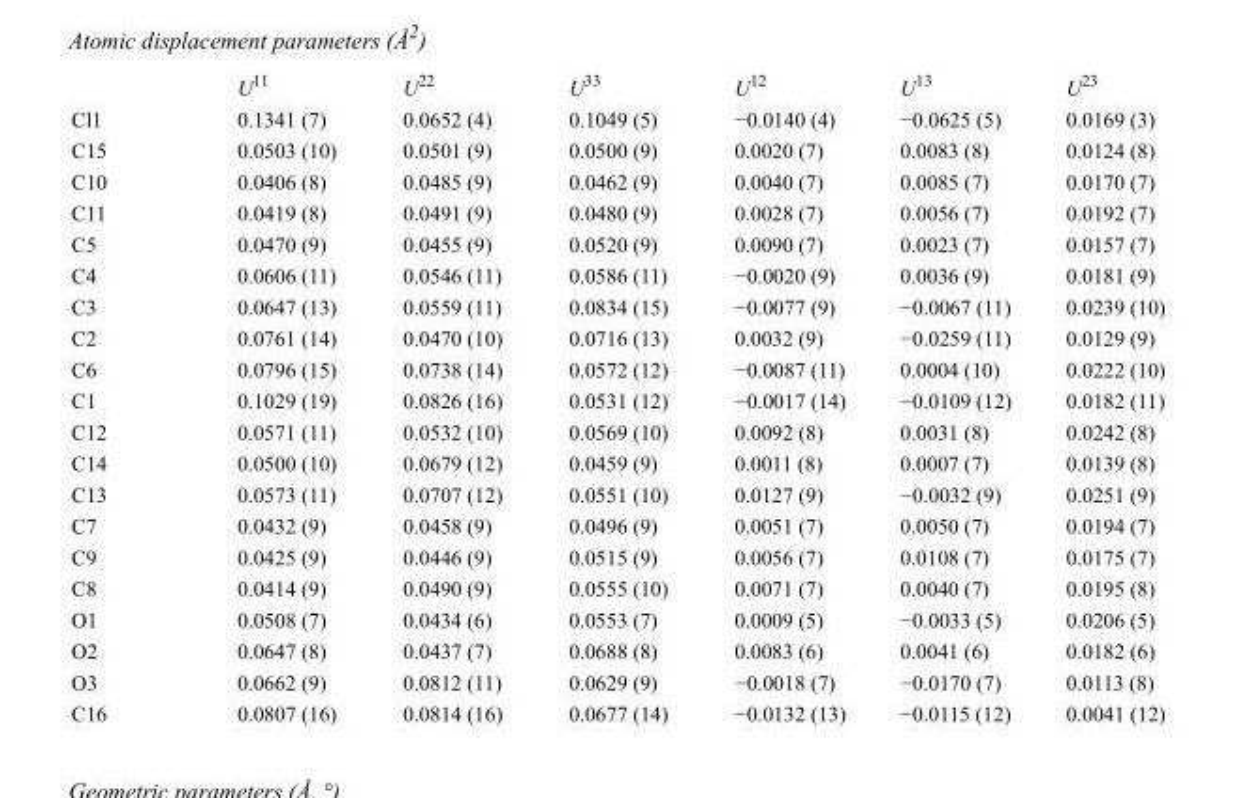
<table><thead><tr><td></td><td>U<sup>11</sup></td><td>U<sup>22</sup></td><td>U<sup>33</sup></td><td>U<sup>12</sup></td><td>U<sup>13</sup></td><td>U<sup>23</sup></td></tr></thead><tbody><tr><td>Cl1</td><td>0.1341 (7)</td><td>0.0652 (4)</td><td>0.1049 (5)</td><td>−0.0140 (4)</td><td>−0.0625 (5)</td><td>0.0169 (3)</td></tr><tr><td>C15</td><td>0.0503 (10)</td><td>0.0501 (9)</td><td>0.0500 (9)</td><td>0.0020 (7)</td><td>0.0083 (8)</td><td>0.0124 (8)</td></tr><tr><td>C10</td><td>0.0406 (8)</td><td>0.0485 (9)</td><td>0.0462 (9)</td><td>0.0040 (7)</td><td>0.0085 (7)</td><td>0.0170 (7)</td></tr><tr><td>C11</td><td>0.0419 (8)</td><td>0.0491 (9)</td><td>0.0480 (9)</td><td>0.0028 (7)</td><td>0.0056 (7)</td><td>0.0192 (7)</td></tr><tr><td>C5</td><td>0.0470 (9)</td><td>0.0455 (9)</td><td>0.0520 (9)</td><td>0.0090 (7)</td><td>0.0023 (7)</td><td>0.0157 (7)</td></tr><tr><td>C4</td><td>0.0606 (11)</td><td>0.0546 (11)</td><td>0.0586 (11)</td><td>−0.0020 (9)</td><td>0.0036 (9)</td><td>0.0181 (9)</td></tr><tr><td>C3</td><td>0.0647 (13)</td><td>0.0559 (11)</td><td>0.0834 (15)</td><td>−0.0077 (9)</td><td>−0.0067 (11)</td><td>0.0239 (10)</td></tr><tr><td>C2</td><td>0.0761 (14)</td><td>0.0470 (10)</td><td>0.0716 (13)</td><td>0.0032 (9)</td><td>−0.0259 (11)</td><td>0.0129 (9)</td></tr><tr><td>C6</td><td>0.0796 (15)</td><td>0.0738 (14)</td><td>0.0572 (12)</td><td>−0.0087 (11)</td><td>0.0004 (10)</td><td>0.0222 (10)</td></tr><tr><td>C1</td><td>0.1029 (19)</td><td>0.0826 (16)</td><td>0.0531 (12)</td><td>−0.0017 (14)</td><td>−0.0109 (12)</td><td>0.0182 (11)</td></tr><tr><td>C12</td><td>0.0571 (11)</td><td>0.0532 (10)</td><td>0.0569 (10)</td><td>0.0092 (8)</td><td>0.0031 (8)</td><td>0.0242 (8)</td></tr><tr><td>C14</td><td>0.0500 (10)</td><td>0.0679 (12)</td><td>0.0459 (9)</td><td>0.0011 (8)</td><td>0.0007 (7)</td><td>0.0139 (8)</td></tr><tr><td>C13</td><td>0.0573 (11)</td><td>0.0707 (12)</td><td>0.0551 (10)</td><td>0.0127 (9)</td><td>−0.0032 (9)</td><td>0.0251 (9)</td></tr><tr><td>C7</td><td>0.0432 (9)</td><td>0.0458 (9)</td><td>0.0496 (9)</td><td>0.0051 (7)</td><td>0.0050 (7)</td><td>0.0194 (7)</td></tr><tr><td>C9</td><td>0.0425 (9)</td><td>0.0446 (9)</td><td>0.0515 (9)</td><td>0.0056 (7)</td><td>0.0108 (7)</td><td>0.0175 (7)</td></tr><tr><td>C8</td><td>0.0414 (9)</td><td>0.0490 (9)</td><td>0.0555 (10)</td><td>0.0071 (7)</td><td>0.0040 (7)</td><td>0.0195 (8)</td></tr><tr><td>O1</td><td>0.0508 (7)</td><td>0.0434 (6)</td><td>0.0553 (7)</td><td>0.0009 (5)</td><td>−0.0033 (5)</td><td>0.0206 (5)</td></tr><tr><td>O2</td><td>0.0647 (8)</td><td>0.0437 (7)</td><td>0.0688 (8)</td><td>0.0083 (6)</td><td>0.0041 (6)</td><td>0.0182 (6)</td></tr><tr><td>O3</td><td>0.0662 (9)</td><td>0.0812 (11)</td><td>0.0629 (9)</td><td>−0.0018 (7)</td><td>−0.0170 (7)</td><td>0.0113 (8)</td></tr><tr><td>C16</td><td>0.0807 (16)</td><td>0.0814 (16)</td><td>0.0677 (14)</td><td>−0.0132 (13)</td><td>−0.0115 (12)</td><td>0.0041 (12)</td></tr></tbody></table>